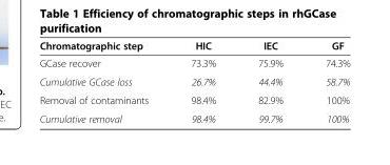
<table><thead><tr><td>Chromatographic step</td><td>HIC</td><td>IEC</td><td>GF</td></tr></thead><tbody><tr><td>GCase recover</td><td>73.3%</td><td>75.9%</td><td>74.3%</td></tr><tr><td>Cumulative GCase loss</td><td>26.7%</td><td>44.4%</td><td>58.7%</td></tr><tr><td>Removal of contaminants</td><td>98.4%</td><td>82.9%</td><td>100%</td></tr><tr><td>Cumulative removal</td><td>98.4%</td><td>99.7%</td><td>100%</td></tr></tbody></table>